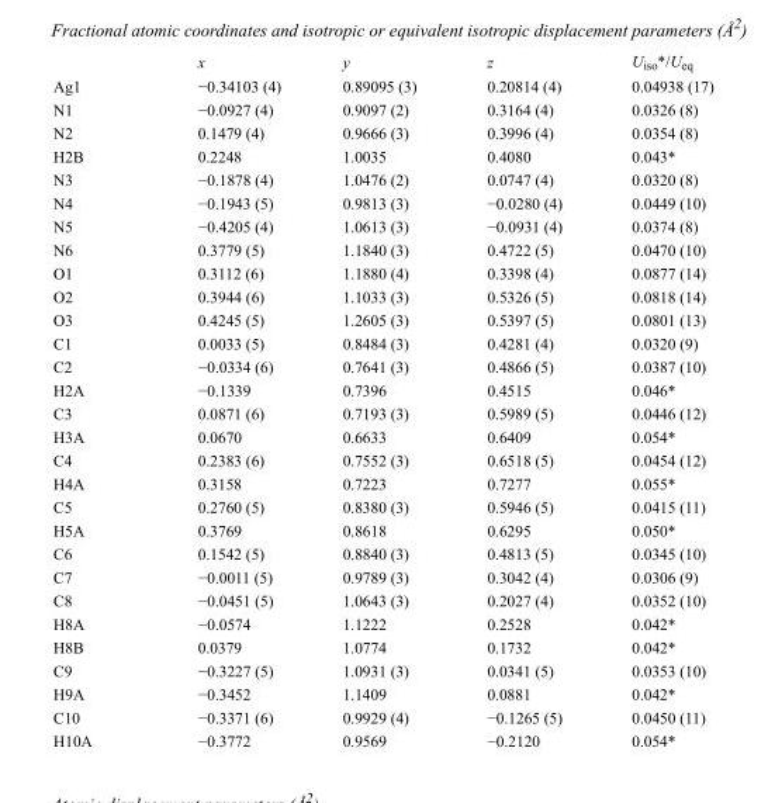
<table><thead><tr><td></td><td>x</td><td>y</td><td>z</td><td>U<sub>iso</sub>*/U<sub>eq</sub></td></tr></thead><tbody><tr><td>Ag1</td><td>−0.34103 (4)</td><td>0.89095 (3)</td><td>0.20814 (4)</td><td>0.04938 (17)</td></tr><tr><td>N1</td><td>−0.0927 (4)</td><td>0.9097 (2)</td><td>0.3164 (4)</td><td>0.0326 (8)</td></tr><tr><td>N2</td><td>0.1479 (4)</td><td>0.9666 (3)</td><td>0.3996 (4)</td><td>0.0354 (8)</td></tr><tr><td>H2B</td><td>0.2248</td><td>1.0035</td><td>0.4080</td><td>0.043*</td></tr><tr><td>N3</td><td>−0.1878 (4)</td><td>1.0476 (2)</td><td>0.0747 (4)</td><td>0.0320 (8)</td></tr><tr><td>N4</td><td>−0.1943 (5)</td><td>0.9813 (3)</td><td>−0.0280 (4)</td><td>0.0449 (10)</td></tr><tr><td>N5</td><td>−0.4205 (4)</td><td>1.0613 (3)</td><td>−0.0931 (4)</td><td>0.0374 (8)</td></tr><tr><td>N6</td><td>0.3779 (5)</td><td>1.1840 (3)</td><td>0.4722 (5)</td><td>0.0470 (10)</td></tr><tr><td>O1</td><td>0.3112 (6)</td><td>1.1880 (4)</td><td>0.3398 (4)</td><td>0.0877 (14)</td></tr><tr><td>O2</td><td>0.3944 (6)</td><td>1.1033 (3)</td><td>0.5326 (5)</td><td>0.0818 (14)</td></tr><tr><td>O3</td><td>0.4245 (5)</td><td>1.2605 (3)</td><td>0.5397 (5)</td><td>0.0801 (13)</td></tr><tr><td>C1</td><td>0.0033 (5)</td><td>0.8484 (3)</td><td>0.4281 (4)</td><td>0.0320 (9)</td></tr><tr><td>C2</td><td>−0.0334 (6)</td><td>0.7641 (3)</td><td>0.4866 (5)</td><td>0.0387 (10)</td></tr><tr><td>H2A</td><td>−0.1339</td><td>0.7396</td><td>0.4515</td><td>0.046*</td></tr><tr><td>C3</td><td>0.0871 (6)</td><td>0.7193 (3)</td><td>0.5989 (5)</td><td>0.0446 (12)</td></tr><tr><td>H3A</td><td>0.0670</td><td>0.6633</td><td>0.6409</td><td>0.054*</td></tr><tr><td>C4</td><td>0.2383 (6)</td><td>0.7552 (3)</td><td>0.6518 (5)</td><td>0.0454 (12)</td></tr><tr><td>H4A</td><td>0.3158</td><td>0.7223</td><td>0.7277</td><td>0.055*</td></tr><tr><td>C5</td><td>0.2760 (5)</td><td>0.8380 (3)</td><td>0.5946 (5)</td><td>0.0415 (11)</td></tr><tr><td>H5A</td><td>0.3769</td><td>0.8618</td><td>0.6295</td><td>0.050*</td></tr><tr><td>C6</td><td>0.1542 (5)</td><td>0.8840 (3)</td><td>0.4813 (5)</td><td>0.0345 (10)</td></tr><tr><td>C7</td><td>−0.0011 (5)</td><td>0.9789 (3)</td><td>0.3042 (4)</td><td>0.0306 (9)</td></tr><tr><td>C8</td><td>−0.0451 (5)</td><td>1.0643 (3)</td><td>0.2027 (4)</td><td>0.0352 (10)</td></tr><tr><td>H8A</td><td>−0.0574</td><td>1.1222</td><td>0.2528</td><td>0.042*</td></tr><tr><td>H8B</td><td>0.0379</td><td>1.0774</td><td>0.1732</td><td>0.042*</td></tr><tr><td>C9</td><td>−0.3227 (5)</td><td>1.0931 (3)</td><td>0.0341 (5)</td><td>0.0353 (10)</td></tr><tr><td>H9A</td><td>−0.3452</td><td>1.1409</td><td>0.0881</td><td>0.042*</td></tr><tr><td>C10</td><td>−0.3371 (6)</td><td>0.9929 (4)</td><td>−0.1265 (5)</td><td>0.0450 (11)</td></tr><tr><td>H10A</td><td>−0.3772</td><td>0.9569</td><td>−0.2120</td><td>0.054*</td></tr></tbody></table>